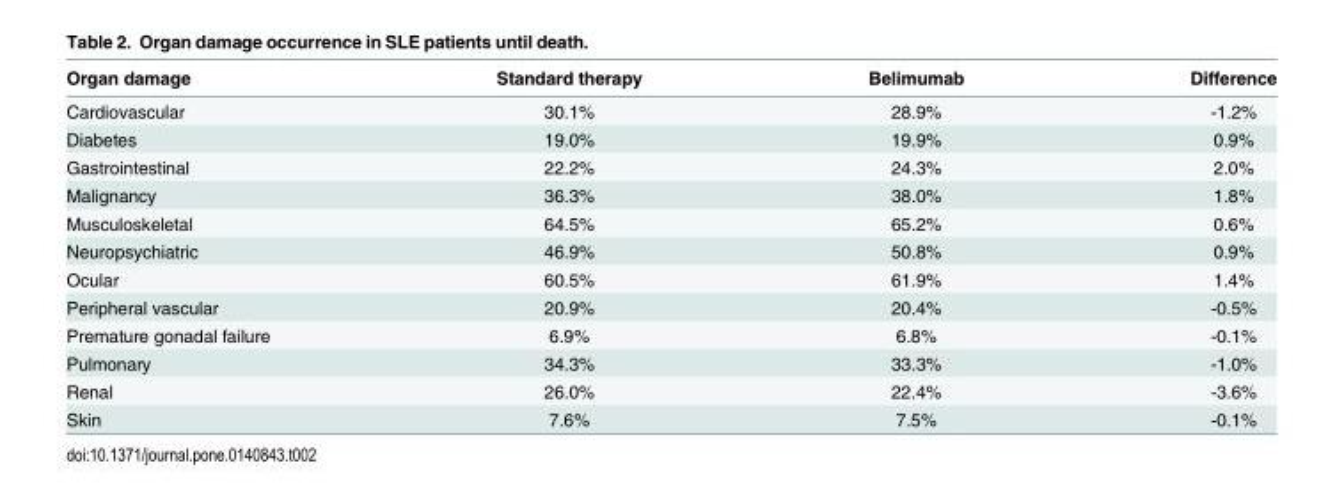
<table><thead><tr><td>Organ damage</td><td>Standard therapy</td><td>Belimumab</td><td>Difference</td></tr></thead><tbody><tr><td>Cardiovascular</td><td>30.1%</td><td>28.9%</td><td>-1.2%</td></tr><tr><td>Diabetes</td><td>19.0%</td><td>19.9%</td><td>0.9%</td></tr><tr><td>Gastrointestinal</td><td>22.2%</td><td>24.3%</td><td>2.0%</td></tr><tr><td>Malignancy</td><td>36.3%</td><td>38.0%</td><td>1.8%</td></tr><tr><td>Musculoskeletal</td><td>64.5%</td><td>65.2%</td><td>0.6%</td></tr><tr><td>Neuropsychiatric</td><td>46.9%</td><td>50.8%</td><td>0.9%</td></tr><tr><td>Ocular</td><td>60.5%</td><td>61.9%</td><td>1.4%</td></tr><tr><td>Peripheral vascular</td><td>20.9%</td><td>20.4%</td><td>-0.5%</td></tr><tr><td>Premature gonadal failure</td><td>6.9%</td><td>6.8%</td><td>-0.1%</td></tr><tr><td>Pulmonary</td><td>34.3%</td><td>33.3%</td><td>-1.0%</td></tr><tr><td>Renal</td><td>26.0%</td><td>22.4%</td><td>-3.6%</td></tr><tr><td>Skin</td><td>7.6%</td><td>7.5%</td><td>-0.1%</td></tr></tbody></table>